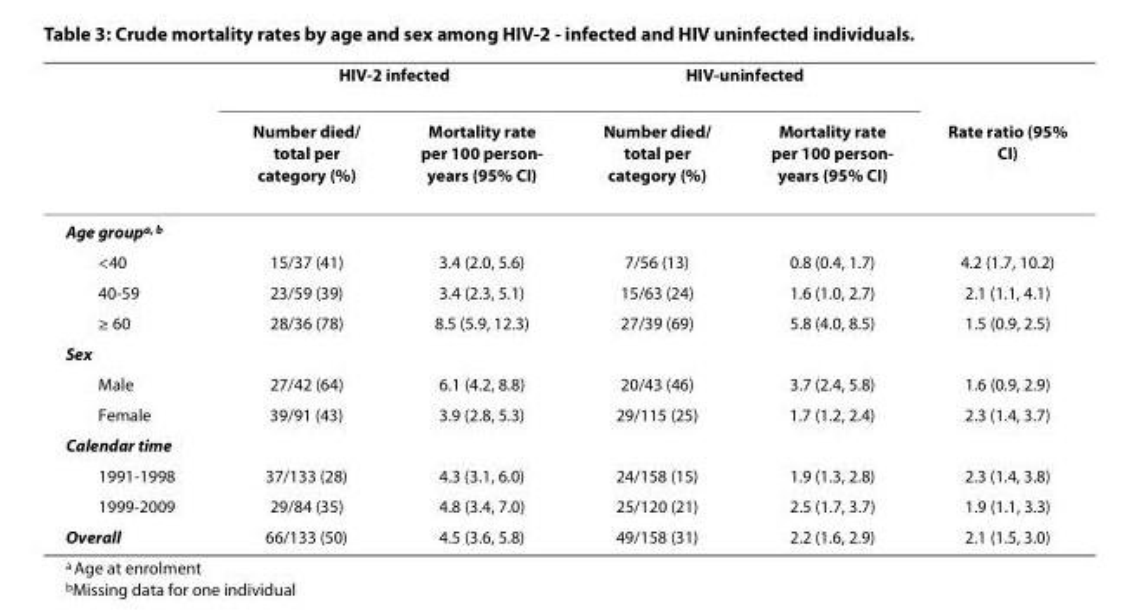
<table><thead><tr><td rowspan="2"></td><td colspan="2">HIV-2 infected</td><td colspan="2">HIV-uninfected</td><td rowspan="2">Rate ratio (95% CI)</td></tr><tr><td>Number died/ total per category (%)</td><td>Mortality rate per 100 person- years (95% CI)</td><td>Number died/ total per category (%)</td><td>Mortality rate per 100 person- years (95% CI)</td></tr></thead><tbody><tr><td colspan="6">Age group<sup>a, b</sup></td></tr><tr><td>&lt;40</td><td>15/37 (41)</td><td>3.4 (2.0, 5.6)</td><td>7/56 (13)</td><td>0.8 (0.4, 1.7)</td><td>4.2 (1.7, 10.2)</td></tr><tr><td>40-59</td><td>23/59 (39)</td><td>3.4 (2.3, 5.1)</td><td>15/63 (24)</td><td>1.6 (1.0, 2.7)</td><td>2.1 (1.1, 4.1)</td></tr><tr><td>≥ 60</td><td>28/36 (78)</td><td>8.5 (5.9, 12.3)</td><td>27/39 (69)</td><td>5.8 (4.0, 8.5)</td><td>1.5 (0.9, 2.5)</td></tr><tr><td colspan="6">Sex</td></tr><tr><td>Male</td><td>27/42 (64)</td><td>6.1 (4.2, 8.8)</td><td>20/43 (46)</td><td>3.7 (2.4, 5.8)</td><td>1.6 (0.9, 2.9)</td></tr><tr><td>Female</td><td>39/91 (43)</td><td>3.9 (2.8, 5.3)</td><td>29/115 (25)</td><td>1.7 (1.2, 2.4)</td><td>2.3 (1.4, 3.7)</td></tr><tr><td colspan="6">Calendar time</td></tr><tr><td>1991-1998</td><td>37/133 (28)</td><td>4.3 (3.1, 6.0)</td><td>24/158 (15)</td><td>1.9 (1.3, 2.8)</td><td>2.3 (1.4, 3.8)</td></tr><tr><td>1999-2009</td><td>29/84 (35)</td><td>4.8 (3.4, 7.0)</td><td>25/120 (21)</td><td>2.5 (1.7, 3.7)</td><td>1.9 (1.1, 3.3)</td></tr><tr><td>Overall</td><td>66/133 (50)</td><td>4.5 (3.6, 5.8)</td><td>49/158 (31)</td><td>2.2 (1.6, 2.9)</td><td>2.1 (1.5, 3.0)</td></tr></tbody></table>